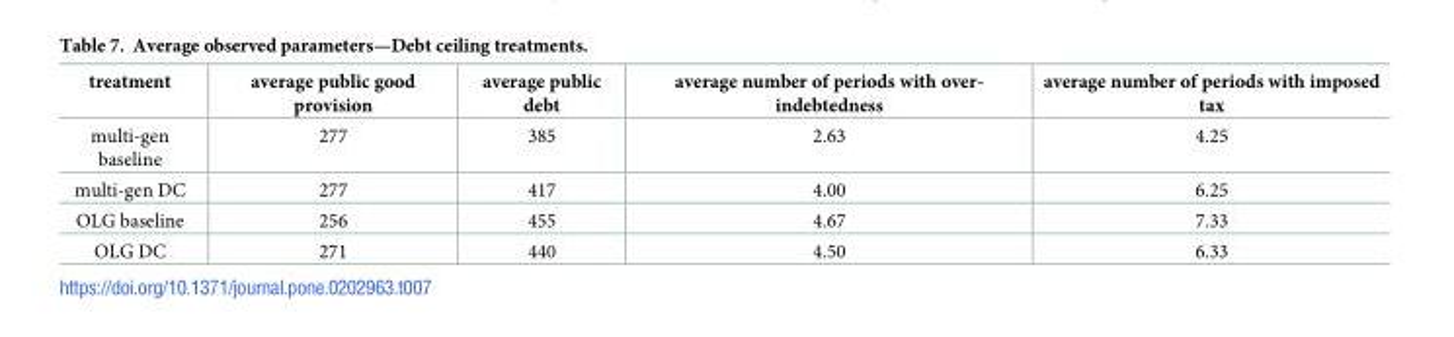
<table><thead><tr><td>treatment</td><td>average public good provision</td><td>average public debt</td><td>average number of periods with over- indebtedness</td><td>average number of periods with imposed tax</td></tr></thead><tbody><tr><td>multi-gen baseline</td><td>277</td><td>385</td><td>2.63</td><td>4.25</td></tr><tr><td>multi-gen DC</td><td>277</td><td>417</td><td>4.00</td><td>6.25</td></tr><tr><td>OLG baseline</td><td>256</td><td>455</td><td>4.67</td><td>7.33</td></tr><tr><td>OLG DC</td><td>271</td><td>440</td><td>4.50</td><td>6.33</td></tr></tbody></table>